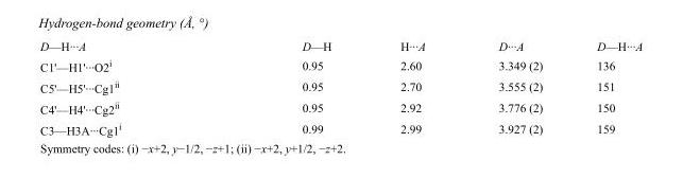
<table><tbody><tr><td>D—H···A</td><td>D—H</td><td>H···A</td><td>D···A</td><td>D—H···A</td></tr><tr><td>C1&#x27;—H1&#x27;···O2<sup>i</sup></td><td>0.95</td><td>2.60</td><td>3.349 (2)</td><td>136</td></tr><tr><td>C5&#x27;—H5&#x27;···Cg1<sup>ii</sup></td><td>0.95</td><td>2.70</td><td>3.555 (2)</td><td>151</td></tr><tr><td>C4&#x27;—H4&#x27;···Cg2<sup>ii</sup></td><td>0.95</td><td>2.92</td><td>3.776 (2)</td><td>150</td></tr><tr><td>C3—H3A···Cg1<sup>i</sup></td><td>0.99</td><td>2.99</td><td>3.927 (2)</td><td>159</td></tr></tbody></table>